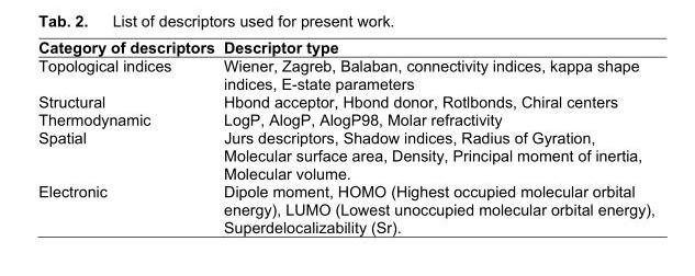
<table><thead><tr><td>Category of descriptors</td><td>Descriptor type</td></tr></thead><tbody><tr><td>Topological indices</td><td>Wiener, Zagreb, Balaban, connectivity indices, kappa shape indices, E-state parameters</td></tr><tr><td>Structural</td><td>Hbond acceptor, Hbond donor, Rotlbonds, Chiral centers</td></tr><tr><td>Thermodynamic</td><td>LogP, AlogP, AlogP98, Molar refractivity</td></tr><tr><td>Spatial</td><td>Jurs descriptors, Shadow indices, Radius of Gyration, Molecular surface area, Density, Principal moment of inertia, Molecular volume.</td></tr><tr><td>Electronic</td><td>Dipole moment, HOMO (Highest occupied molecular orbital energy), LUMO (Lowest unoccupied molecular orbital energy), Superdelocalizability (Sr).</td></tr></tbody></table>